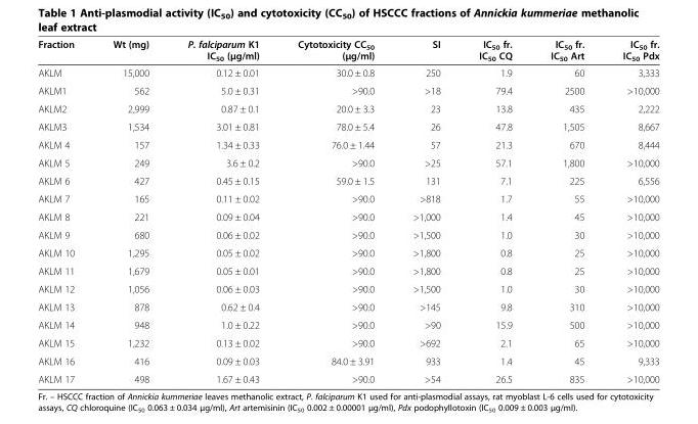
<table><thead><tr><td>Fraction</td><td>Wt (mg)</td><td>P. falciparum K1 IC<sub>50</sub> (μg/ml)</td><td>Cytotoxicity CC<sub>50</sub> (μg/ml)</td><td>SI</td><td>IC<sub>50</sub> fr. IC<sub>50</sub> CQ</td><td>IC<sub>50</sub> fr. IC<sub>50</sub> Art</td><td>IC<sub>50</sub> fr. IC<sub>50</sub> Pdx</td></tr></thead><tbody><tr><td>AKLM</td><td>15,000</td><td>0.12 ± 0.01</td><td>30.0 ± 0.8</td><td>250</td><td>1.9</td><td>60</td><td>3,333</td></tr><tr><td>AKLM1</td><td>562</td><td>5.0 ± 0.31</td><td>&gt;90.0</td><td>&gt;18</td><td>79.4</td><td>2500</td><td>&gt;10,000</td></tr><tr><td>AKLM2</td><td>2,999</td><td>0.87 ± 0.1</td><td>20.0 ± 3.3</td><td>23</td><td>13.8</td><td>435</td><td>2,222</td></tr><tr><td>AKLM3</td><td>1,534</td><td>3.01 ± 0.81</td><td>78.0 ± 5.4</td><td>26</td><td>47.8</td><td>1,505</td><td>8,667</td></tr><tr><td>AKLM 4</td><td>157</td><td>1.34 ± 0.33</td><td>76.0 ± 1.44</td><td>57</td><td>21.3</td><td>670</td><td>8,444</td></tr><tr><td>AKLM 5</td><td>249</td><td>3.6 ± 0.2</td><td>&gt;90.0</td><td>&gt;25</td><td>57.1</td><td>1,800</td><td>&gt;10,000</td></tr><tr><td>AKLM 6</td><td>427</td><td>0.45 ± 0.15</td><td>59.0 ± 1.5</td><td>131</td><td>7.1</td><td>225</td><td>6,556</td></tr><tr><td>AKLM 7</td><td>165</td><td>0.11 ± 0.02</td><td>&gt;90.0</td><td>&gt;818</td><td>1.7</td><td>55</td><td>&gt;10,000</td></tr><tr><td>AKLM 8</td><td>221</td><td>0.09 ± 0.04</td><td>&gt;90.0</td><td>&gt;1,000</td><td>1.4</td><td>45</td><td>&gt;10,000</td></tr><tr><td>AKLM 9</td><td>680</td><td>0.06 ± 0.02</td><td>&gt;90.0</td><td>&gt;1,500</td><td>1.0</td><td>30</td><td>&gt;10,000</td></tr><tr><td>AKLM 10</td><td>1,295</td><td>0.05 ± 0.02</td><td>&gt;90.0</td><td>&gt;1,800</td><td>0.8</td><td>25</td><td>&gt;10,000</td></tr><tr><td>AKLM 11</td><td>1,679</td><td>0.05 ± 0.01</td><td>&gt;90.0</td><td>&gt;1,800</td><td>0.8</td><td>25</td><td>&gt;10,000</td></tr><tr><td>AKLM 12</td><td>1,056</td><td>0.06 ± 0.03</td><td>&gt;90.0</td><td>&gt;1,500</td><td>1.0</td><td>30</td><td>&gt;10,000</td></tr><tr><td>AKLM 13</td><td>878</td><td>0.62 ± 0.4</td><td>&gt;90.0</td><td>&gt;145</td><td>9.8</td><td>310</td><td>&gt;10,000</td></tr><tr><td>AKLM 14</td><td>948</td><td>1.0 ± 0.22</td><td>&gt;90.0</td><td>&gt;90</td><td>15.9</td><td>500</td><td>&gt;10,000</td></tr><tr><td>AKLM 15</td><td>1,232</td><td>0.13 ± 0.02</td><td>&gt;90.0</td><td>&gt;692</td><td>2.1</td><td>65</td><td>&gt;10,000</td></tr><tr><td>AKLM 16</td><td>416</td><td>0.09 ± 0.03</td><td>84.0 ± 3.91</td><td>933</td><td>1.4</td><td>45</td><td>9,333</td></tr><tr><td>AKLM 17</td><td>498</td><td>1.67 ± 0.43</td><td>&gt;90.0</td><td>&gt;54</td><td>26.5</td><td>835</td><td>&gt;10,000</td></tr></tbody></table>